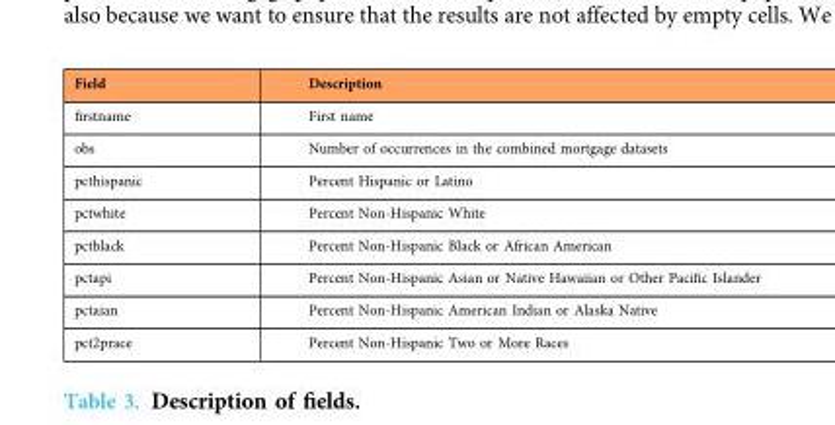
<table><thead><tr><td>Field</td><td>Description</td></tr></thead><tbody><tr><td>firstname</td><td>First name</td></tr><tr><td>obs</td><td>Number of occurrences in the combined mortgage datasets</td></tr><tr><td>pcthispanic</td><td>Percent Hispanic or Latino</td></tr><tr><td>pctwhite</td><td>Percent Non-Hispanic White</td></tr><tr><td>pctblack</td><td>Percent Non-Hispanic Black or African American</td></tr><tr><td>pctapi</td><td>Percent Non-Hispanic Asian or Native Hawaiian or Other Pacific Islander</td></tr><tr><td>pctaian</td><td>Percent Non-Hispanic American Indian or Alaska Native</td></tr><tr><td>pct2prace</td><td>Percent Non-Hispanic Two or More Races</td></tr></tbody></table>